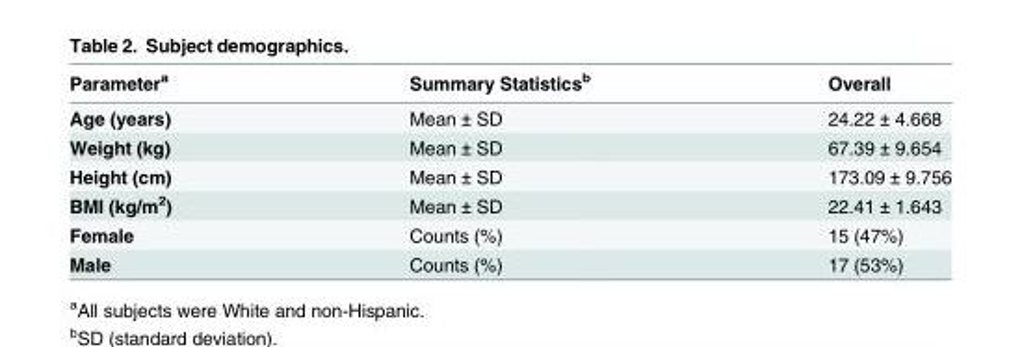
<table><thead><tr><td>Parameter<sup>a</sup></td><td>Summary Statistics<sup>b</sup></td><td>Overall</td></tr></thead><tbody><tr><td>Age (years)</td><td>Mean ± SD</td><td>24.22 ± 4.668</td></tr><tr><td>Weight (kg)</td><td>Mean ± SD</td><td>67.39 ± 9.654</td></tr><tr><td>Height (cm)</td><td>Mean ± SD</td><td>173.09 ± 9.756</td></tr><tr><td>BMI (kg/m<sup>2</sup>)</td><td>Mean ± SD</td><td>22.41 ± 1.643</td></tr><tr><td>Female</td><td>Counts (%)</td><td>15 (47%)</td></tr><tr><td>Male</td><td>Counts (%)</td><td>17 (53%)</td></tr></tbody></table>